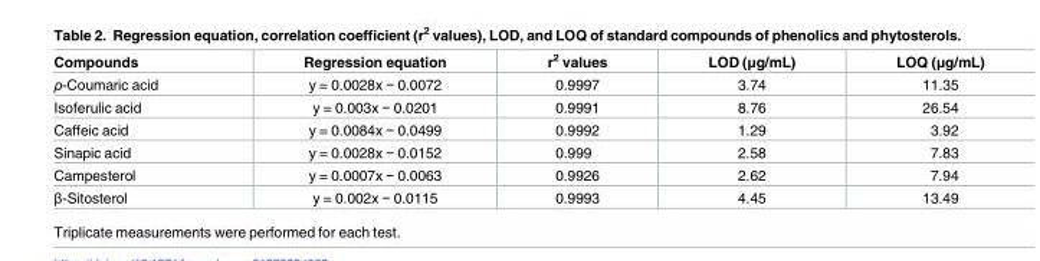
<table><thead><tr><td>Compounds</td><td>Regression equation</td><td>r<sup>2</sup> values</td><td>LOD (μg/mL)</td><td>LOQ (μg/mL)</td></tr></thead><tbody><tr><td>ρ-Coumaric acid</td><td>y = 0.0028x − 0.0072</td><td>0.9997</td><td>3.74</td><td>11.35</td></tr><tr><td>Isoferulic acid</td><td>y = 0.003x − 0.0201</td><td>0.9991</td><td>8.76</td><td>26.54</td></tr><tr><td>Caffeic acid</td><td>y = 0.0084x − 0.0499</td><td>0.9992</td><td>1.29</td><td>3.92</td></tr><tr><td>Sinapic acid</td><td>y = 0.0028x − 0.0152</td><td>0.999</td><td>2.58</td><td>7.83</td></tr><tr><td>Campesterol</td><td>y = 0.0007x − 0.0063</td><td>0.9926</td><td>2.62</td><td>7.94</td></tr><tr><td>β-Sitosterol</td><td>y = 0.002x − 0.0115</td><td>0.9993</td><td>4.45</td><td>13.49</td></tr></tbody></table>